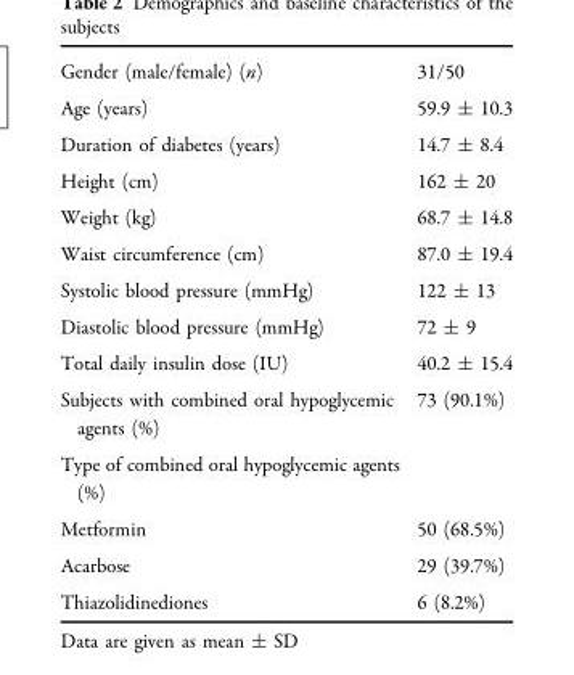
<table><tbody><tr><td>Gender (male/female) (n)</td><td>31/50</td></tr><tr><td>Age (years)</td><td>59.9 ± 10.3</td></tr><tr><td>Duration of diabetes (years)</td><td>14.7 ± 8.4</td></tr><tr><td>Height (cm)</td><td>162 ± 20</td></tr><tr><td>Weight (kg)</td><td>68.7 ± 14.8</td></tr><tr><td>Waist circumference (cm)</td><td>87.0 ± 19.4</td></tr><tr><td>Systolic blood pressure (mmHg)</td><td>122 ± 13</td></tr><tr><td>Diastolic blood pressure (mmHg)</td><td>72 ± 9</td></tr><tr><td>Total daily insulin dose (IU)</td><td>40.2 ± 15.4</td></tr><tr><td>Subjects with combined oral hypoglycemic agents (%)</td><td>73 (90.1%)</td></tr><tr><td colspan="2">Type of combined oral hypoglycemic agents (%)</td></tr><tr><td>Metformin</td><td>50 (68.5%)</td></tr><tr><td>Acarbose</td><td>29 (39.7%)</td></tr><tr><td>Thiazolidinediones</td><td>6 (8.2%)</td></tr></tbody></table>